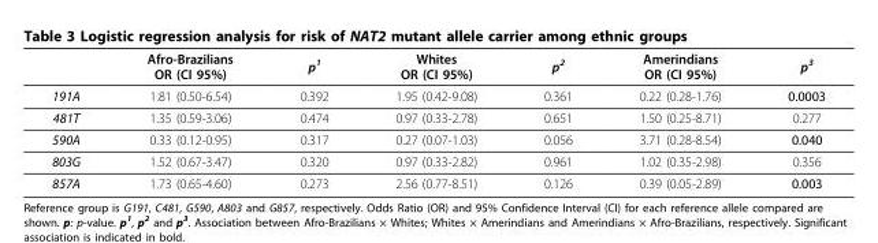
<table><thead><tr><td></td><td>Afro-Brazilians OR (CI 95%)</td><td>p<sup>1</sup></td><td>Whites OR (CI 95%)</td><td>p<sup>2</sup></td><td>Amerindians OR (CI 95%)</td><td>p<sup>3</sup></td></tr></thead><tbody><tr><td>191A</td><td>1.81 (0.50-6.54)</td><td>0.392</td><td>1.95 (0.42-9.08)</td><td>0.361</td><td>0.22 (0.28-1.76)</td><td>0.0003</td></tr><tr><td>481T</td><td>1.35 (0.59-3.06)</td><td>0.474</td><td>0.97 (0.33-2.78)</td><td>0.651</td><td>1.50 (0.25-8.71)</td><td>0.277</td></tr><tr><td>590A</td><td>0.33 (0.12-0.95)</td><td>0.317</td><td>0.27 (0.07-1.03)</td><td>0.056</td><td>3.71 (0.28-8.54)</td><td>0.040</td></tr><tr><td>803G</td><td>1.52 (0.67-3.47)</td><td>0.320</td><td>0.97 (0.33-2.82)</td><td>0.961</td><td>1.02 (0.35-2.98)</td><td>0.356</td></tr><tr><td>857A</td><td>1.73 (0.65-4.60)</td><td>0.273</td><td>2.56 (0.77-8.51)</td><td>0.126</td><td>0.39 (0.05-2.89)</td><td>0.003</td></tr></tbody></table>